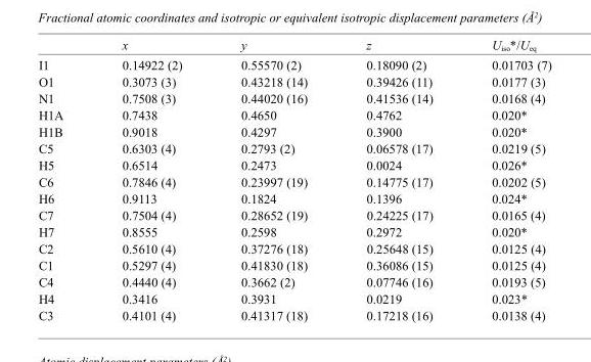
<table><thead><tr><td></td><td>x</td><td>y</td><td>z</td><td>U<sub>iso</sub>*/U<sub>eq</sub></td></tr></thead><tbody><tr><td>I1</td><td>0.14922 (2)</td><td>0.55570 (2)</td><td>0.18090 (2)</td><td>0.01703 (7)</td></tr><tr><td>O1</td><td>0.3073 (3)</td><td>0.43218 (14)</td><td>0.39426 (11)</td><td>0.0177 (3)</td></tr><tr><td>N1</td><td>0.7508 (3)</td><td>0.44020 (16)</td><td>0.41536 (14)</td><td>0.0168 (4)</td></tr><tr><td>H1A</td><td>0.7438</td><td>0.4650</td><td>0.4762</td><td>0.020*</td></tr><tr><td>H1B</td><td>0.9018</td><td>0.4297</td><td>0.3900</td><td>0.020*</td></tr><tr><td>C5</td><td>0.6303 (4)</td><td>0.2793 (2)</td><td>0.06578 (17)</td><td>0.0219 (5)</td></tr><tr><td>H5</td><td>0.6514</td><td>0.2473</td><td>0.0024</td><td>0.026*</td></tr><tr><td>C6</td><td>0.7846 (4)</td><td>0.23997 (19)</td><td>0.14775 (17)</td><td>0.0202 (5)</td></tr><tr><td>H6</td><td>0.9113</td><td>0.1824</td><td>0.1396</td><td>0.024*</td></tr><tr><td>C7</td><td>0.7504 (4)</td><td>0.28652 (19)</td><td>0.24225 (17)</td><td>0.0165 (4)</td></tr><tr><td>H7</td><td>0.8555</td><td>0.2598</td><td>0.2972</td><td>0.020*</td></tr><tr><td>C2</td><td>0.5610 (4)</td><td>0.37276 (18)</td><td>0.25648 (15)</td><td>0.0125 (4)</td></tr><tr><td>C1</td><td>0.5297 (4)</td><td>0.41830 (18)</td><td>0.36086 (15)</td><td>0.0125 (4)</td></tr><tr><td>C4</td><td>0.4440 (4)</td><td>0.3662 (2)</td><td>0.07746 (16)</td><td>0.0193 (5)</td></tr><tr><td>H4</td><td>0.3416</td><td>0.3931</td><td>0.0219</td><td>0.023*</td></tr><tr><td>C3</td><td>0.4101 (4)</td><td>0.41317 (18)</td><td>0.17218 (16)</td><td>0.0138 (4)</td></tr></tbody></table>